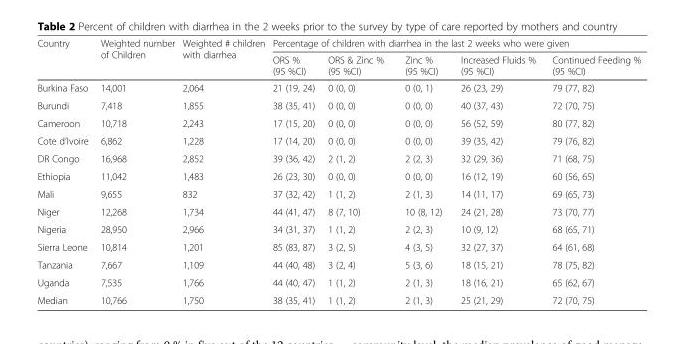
<table><thead><tr><td rowspan="2">Country</td><td rowspan="2">Weighted number of Children</td><td rowspan="2">Weighted # children with diarrhea</td><td colspan="5">Percentage of children with diarrhea in the last 2 weeks who were given</td></tr><tr><td>ORS % (95 %CI)</td><td>ORS &amp; Zinc % (95 %CI)</td><td>Zinc % (95 %CI)</td><td>Increased Fluids % (95 %CI)</td><td>Continued Feeding % (95 %CI)</td></tr></thead><tbody><tr><td>Burkina Faso</td><td>14,001</td><td>2,064</td><td>21 (19, 24)</td><td>0 (0, 0)</td><td>0 (0, 1)</td><td>26 (23, 29)</td><td>79 (77, 82)</td></tr><tr><td>Burundi</td><td>7,418</td><td>1,855</td><td>38 (35, 41)</td><td>0 (0, 0)</td><td>0 (0, 0)</td><td>40 (37, 43)</td><td>72 (70, 75)</td></tr><tr><td>Cameroon</td><td>10,718</td><td>2,243</td><td>17 (15, 20)</td><td>0 (0, 0)</td><td>0 (0, 0)</td><td>56 (52, 59)</td><td>80 (77, 82)</td></tr><tr><td>Cote d’Ivoire</td><td>6,862</td><td>1,228</td><td>17 (14, 20)</td><td>0 (0, 0)</td><td>0 (0, 0)</td><td>39 (35, 42)</td><td>79 (76, 82)</td></tr><tr><td>DR Congo</td><td>16,968</td><td>2,852</td><td>39 (36, 42)</td><td>2 (1, 2)</td><td>2 (2, 3)</td><td>32 (29, 36)</td><td>71 (68, 75)</td></tr><tr><td>Ethiopia</td><td>11,042</td><td>1,483</td><td>26 (23, 30)</td><td>0 (0, 0)</td><td>0 (0, 0)</td><td>16 (12, 19)</td><td>60 (56, 65)</td></tr><tr><td>Mali</td><td>9,655</td><td>832</td><td>37 (32, 42)</td><td>1 (1, 2)</td><td>2 (1, 3)</td><td>14 (11, 17)</td><td>69 (65, 73)</td></tr><tr><td>Niger</td><td>12,268</td><td>1,734</td><td>44 (41, 47)</td><td>8 (7, 10)</td><td>10 (8, 12)</td><td>24 (21, 28)</td><td>73 (70, 77)</td></tr><tr><td>Nigeria</td><td>28,950</td><td>2,966</td><td>34 (31, 37)</td><td>1 (1, 2)</td><td>2 (2, 3)</td><td>10 (9, 12)</td><td>68 (65, 71)</td></tr><tr><td>Sierra Leone</td><td>10,814</td><td>1,201</td><td>85 (83, 87)</td><td>3 (2, 5)</td><td>4 (3, 5)</td><td>32 (27, 37)</td><td>64 (61, 68)</td></tr><tr><td>Tanzania</td><td>7,667</td><td>1,109</td><td>44 (40, 48)</td><td>3 (2, 4)</td><td>5 (3, 6)</td><td>18 (15, 21)</td><td>78 (75, 82)</td></tr><tr><td>Uganda</td><td>7,535</td><td>1,766</td><td>44 (40, 47)</td><td>1 (1, 2)</td><td>2 (1, 3)</td><td>18 (16, 21)</td><td>65 (62, 67)</td></tr><tr><td>Median</td><td>10,766</td><td>1,750</td><td>38 (35, 41)</td><td>1 (1, 2)</td><td>2 (1, 3)</td><td>25 (21, 29)</td><td>72 (70, 75)</td></tr></tbody></table>